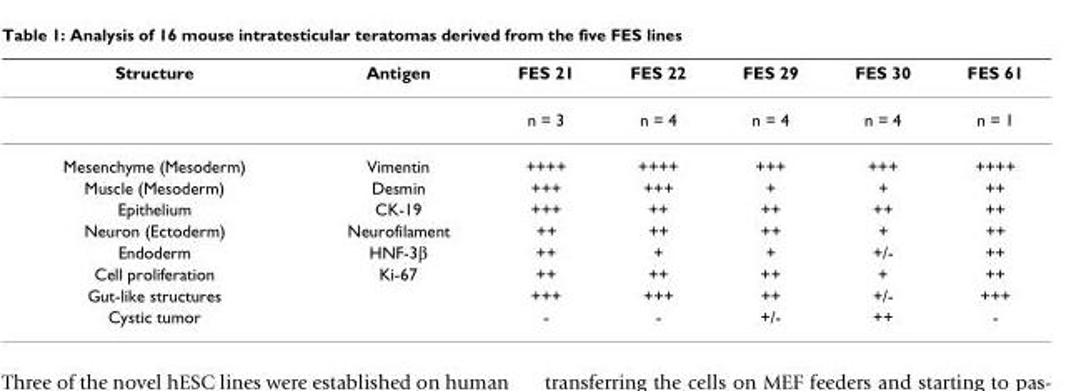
<table><thead><tr><td>Structure</td><td>Antigen</td><td>FES 21</td><td>FES 22</td><td>FES 29</td><td>FES 30</td><td>FES 61</td></tr></thead><tbody><tr><td></td><td></td><td>n = 3</td><td>n = 4</td><td>n = 4</td><td>n = 4</td><td>n = 1</td></tr><tr><td>Mesenchyme (Mesoderm)</td><td>Vimentin</td><td>++++</td><td>++++</td><td>+++</td><td>+++</td><td>++++</td></tr><tr><td>Muscle (Mesoderm)</td><td>Desmin</td><td>+++</td><td>+++</td><td>+</td><td>+</td><td>++</td></tr><tr><td>Epithelium</td><td>CK-19</td><td>+++</td><td>++</td><td>++</td><td>++</td><td>++</td></tr><tr><td>Neuron (Ectoderm)</td><td>Neurofilament</td><td>++</td><td>++</td><td>++</td><td>+</td><td>++</td></tr><tr><td>Endoderm</td><td>HNF-3β</td><td>++</td><td>+</td><td>+</td><td>+/-</td><td>++</td></tr><tr><td>Cell proliferation</td><td>Ki-67</td><td>++</td><td>++</td><td>++</td><td>+</td><td>++</td></tr><tr><td>Gut-like structures</td><td></td><td>+++</td><td>+++</td><td>++</td><td>+/-</td><td>+++</td></tr><tr><td>Cystic tumor</td><td></td><td>-</td><td>-</td><td>+/-</td><td>++</td><td>-</td></tr></tbody></table>